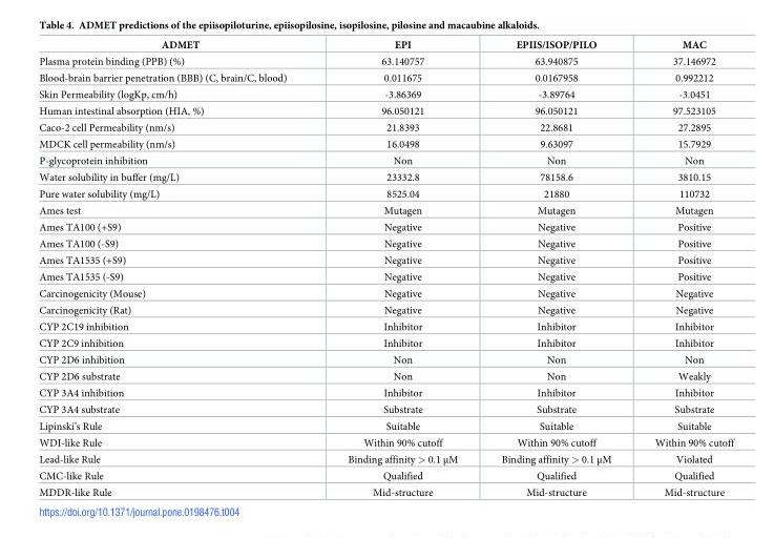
<table><thead><tr><td>ADMET</td><td>EPI</td><td>EPIIS/ISOP/PILO</td><td>MAC</td></tr></thead><tbody><tr><td>Plasma protein binding (PPB) (%)</td><td>63.140757</td><td>63.940875</td><td>37.146972</td></tr><tr><td>Blood-brain barrier penetration (BBB) (C, brain/C, blood)</td><td>0.011675</td><td>0.0167958</td><td>0.992212</td></tr><tr><td>Skin Permeability (logKp, cm/h)</td><td>-3.86369</td><td>-3.89764</td><td>-3.0451</td></tr><tr><td>Human intestinal absorption (HIA, %)</td><td>96.050121</td><td>96.050121</td><td>97.523105</td></tr><tr><td>Caco-2 cell Permeability (nm/s)</td><td>21.8393</td><td>22.8681</td><td>27.2895</td></tr><tr><td>MDCK cell permeability (nm/s)</td><td>16.0498</td><td>9.63097</td><td>15.7929</td></tr><tr><td>P-glycoprotein inhibition</td><td>Non</td><td>Non</td><td>Non</td></tr><tr><td>Water solubility in buffer (mg/L)</td><td>23332.8</td><td>78158.6</td><td>3810.15</td></tr><tr><td>Pure water solubility (mg/L)</td><td>8525.04</td><td>21880</td><td>110732</td></tr><tr><td>Ames test</td><td>Mutagen</td><td>Mutagen</td><td>Mutagen</td></tr><tr><td>Ames TA100 (+S9)</td><td>Negative</td><td>Negative</td><td>Positive</td></tr><tr><td>Ames TA100 (-S9)</td><td>Negative</td><td>Negative</td><td>Positive</td></tr><tr><td>Ames TA1535 (+S9)</td><td>Negative</td><td>Negative</td><td>Positive</td></tr><tr><td>Ames TA1535 (-S9)</td><td>Negative</td><td>Negative</td><td>Positive</td></tr><tr><td>Carcinogenicity (Mouse)</td><td>Negative</td><td>Negative</td><td>Negative</td></tr><tr><td>Carcinogenicity (Rat)</td><td>Negative</td><td>Negative</td><td>Negative</td></tr><tr><td>CYP 2C19 inhibition</td><td>Inhibitor</td><td>Inhibitor</td><td>Inhibitor</td></tr><tr><td>CYP 2C9 inhibition</td><td>Inhibitor</td><td>Inhibitor</td><td>Inhibitor</td></tr><tr><td>CYP 2D6 inhibition</td><td>Non</td><td>Non</td><td>Non</td></tr><tr><td>CYP 2D6 substrate</td><td>Non</td><td>Non</td><td>Weakly</td></tr><tr><td>CYP 3A4 inhibition</td><td>Inhibitor</td><td>Inhibitor</td><td>Inhibitor</td></tr><tr><td>CYP 3A4 substrate</td><td>Substrate</td><td>Substrate</td><td>Substrate</td></tr><tr><td>Lipinski’s Rule</td><td>Suitable</td><td>Suitable</td><td>Suitable</td></tr><tr><td>WDI-like Rule</td><td>Within 90% cutoff</td><td>Within 90% cutoff</td><td>Within 90% cutoff</td></tr><tr><td>Lead-like Rule</td><td>Binding affinity &gt; 0.1 μM</td><td>Binding affinity &gt; 0.1 μM</td><td>Violated</td></tr><tr><td>CMC-like Rule</td><td>Qualified</td><td>Qualified</td><td>Qualified</td></tr><tr><td>MDDR-like Rule</td><td>Mid-structure</td><td>Mid-structure</td><td>Mid-structure</td></tr></tbody></table>